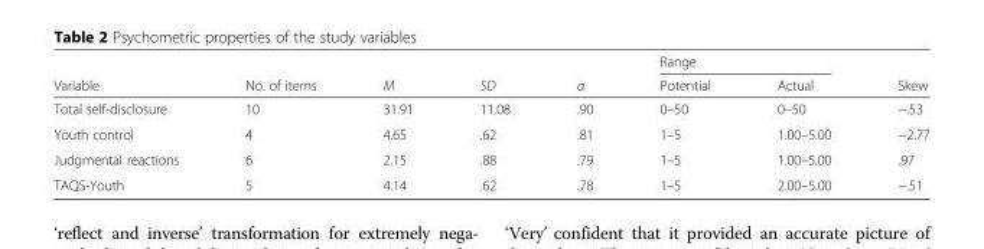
<table><thead><tr><td rowspan="2">Variable</td><td rowspan="2">No. of items</td><td rowspan="2">M</td><td rowspan="2">SD</td><td rowspan="2">α</td><td colspan="2">Range</td><td rowspan="2">Skew</td></tr><tr><td>Potential</td><td>Actual</td></tr></thead><tbody><tr><td>Total self-disclosure</td><td>10</td><td>31.91</td><td>11.08</td><td>.90</td><td>0–50</td><td>0–50</td><td>−.53</td></tr><tr><td>Youth control</td><td>4</td><td>4.65</td><td>.62</td><td>.81</td><td>1–5</td><td>1.00–5.00</td><td>−2.77</td></tr><tr><td>Judgmental reactions</td><td>6</td><td>2.15</td><td>.88</td><td>.79</td><td>1–5</td><td>1.00–5.00</td><td>.97</td></tr><tr><td>TAQS-Youth</td><td>5</td><td>4.14</td><td>.62</td><td>.78</td><td>1–5</td><td>2.00–5.00</td><td>−.51</td></tr></tbody></table>